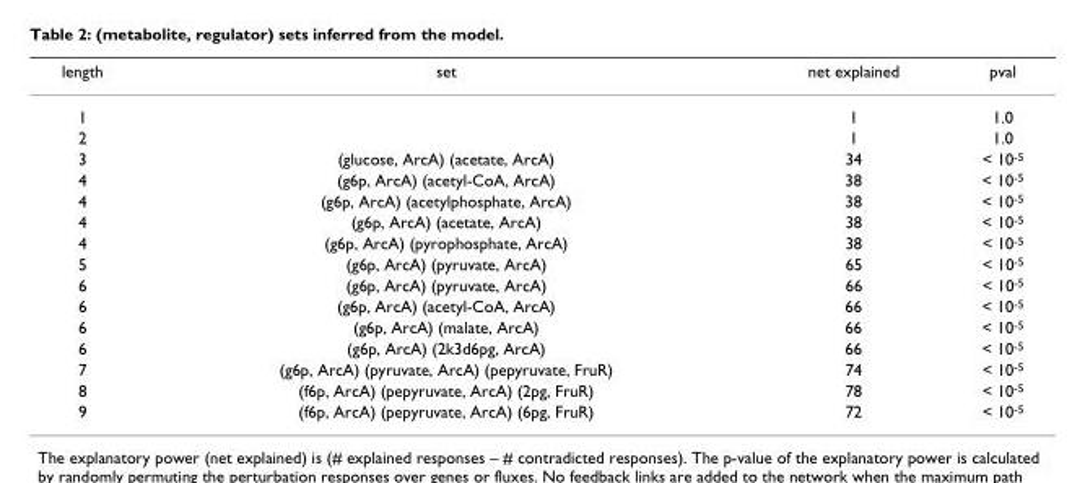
<table><thead><tr><td>length</td><td>set</td><td>net explained</td><td>pval</td></tr></thead><tbody><tr><td>1</td><td></td><td>1</td><td>1.0</td></tr><tr><td>2</td><td></td><td>1</td><td>1.0</td></tr><tr><td>3</td><td>(glucose, ArcA) (acetate, ArcA)</td><td>34</td><td>&lt; 10-5</td></tr><tr><td>4</td><td>(g6p, ArcA) (acetyl-CoA, ArcA)</td><td>38</td><td>&lt; 10-5</td></tr><tr><td>4</td><td>(g6p, ArcA) (acetylphosphate, ArcA)</td><td>38</td><td>&lt; 10-5</td></tr><tr><td>4</td><td>(g6p, ArcA) (acetate, ArcA)</td><td>38</td><td>&lt; 10-5</td></tr><tr><td>4</td><td>(g6p, ArcA) (pyrophosphate, ArcA)</td><td>38</td><td>&lt; 10-5</td></tr><tr><td>5</td><td>(g6p, ArcA) (pyruvate, ArcA)</td><td>65</td><td>&lt; 10-5</td></tr><tr><td>6</td><td>(g6p, ArcA) (pyruvate, ArcA)</td><td>66</td><td>&lt; 10-5</td></tr><tr><td>6</td><td>(g6p, ArcA) (acetyl-CoA, ArcA)</td><td>66</td><td>&lt; 10-5</td></tr><tr><td>6</td><td>(g6p, ArcA) (malate, ArcA)</td><td>66</td><td>&lt; 10-5</td></tr><tr><td>6</td><td>(g6p, ArcA) (2k3d6pg, ArcA)</td><td>66</td><td>&lt; 10-5</td></tr><tr><td>7</td><td>(g6p, ArcA) (pyruvate, ArcA) (pepyruvate, FruR)</td><td>74</td><td>&lt; 10-5</td></tr><tr><td>8</td><td>(f6p, ArcA) (pepyruvate, ArcA) (2pg, FruR)</td><td>78</td><td>&lt; 10-5</td></tr><tr><td>9</td><td>(f6p, ArcA) (pepyruvate, ArcA) (6pg, FruR)</td><td>72</td><td>&lt; 10-5</td></tr></tbody></table>